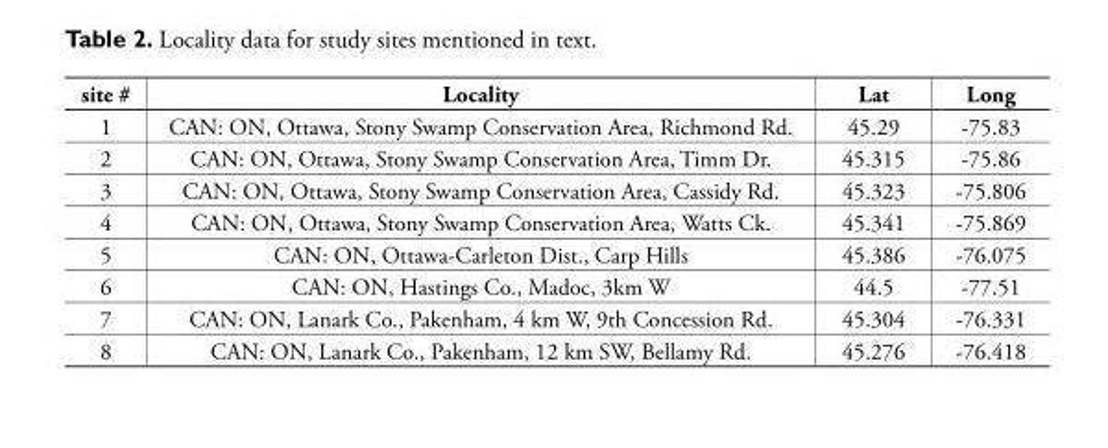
<table><thead><tr><td>site #</td><td>Locality</td><td>Lat</td><td>Long</td></tr></thead><tbody><tr><td>1</td><td>CAN: ON, Ottawa, Stony Swamp Conservation Area, Richmond Rd.</td><td>45.29</td><td>-75.83</td></tr><tr><td>2</td><td>CAN: ON, Ottawa, Stony Swamp Conservation Area, Timm Dr.</td><td>45.315</td><td>-75.86</td></tr><tr><td>3</td><td>CAN: ON, Ottawa, Stony Swamp Conservation Area, Cassidy Rd.</td><td>45.323</td><td>-75.806</td></tr><tr><td>4</td><td>CAN: ON, Ottawa, Stony Swamp Conservation Area, Watts Ck.</td><td>45.341</td><td>-75.869</td></tr><tr><td>5</td><td>CAN: ON, Ottawa-Carleton Dist., Carp Hills</td><td>45.386</td><td>-76.075</td></tr><tr><td>6</td><td>CAN: ON, Hastings Co., Madoc, 3km W</td><td>44.5</td><td>-77.51</td></tr><tr><td>7</td><td>CAN: ON, Lanark Co., Pakenham, 4 km W, 9th Concession Rd.</td><td>45.304</td><td>-76.331</td></tr><tr><td>8</td><td>CAN: ON, Lanark Co., Pakenham, 12 km SW, Bellamy Rd.</td><td>45.276</td><td>-76.418</td></tr></tbody></table>